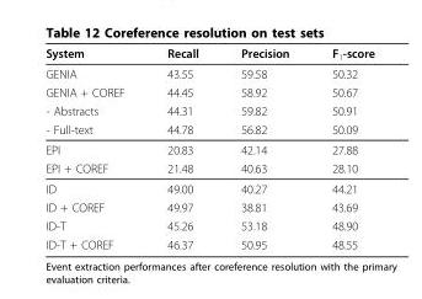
<table><thead><tr><td>System</td><td>Recall</td><td>Precision</td><td>F<sub>1</sub>-score</td></tr></thead><tbody><tr><td>GENIA</td><td>43.55</td><td>59.58</td><td>50.32</td></tr><tr><td>GENIA + COREF</td><td>44.45</td><td>58.92</td><td>50.67</td></tr><tr><td>- Abstracts</td><td>44.31</td><td>59.82</td><td>50.91</td></tr><tr><td>- Full-text</td><td>44.78</td><td>56.82</td><td>50.09</td></tr><tr><td>EPI</td><td>20.83</td><td>42.14</td><td>27.88</td></tr><tr><td>EPI + COREF</td><td>21.48</td><td>40.63</td><td>28.10</td></tr><tr><td>ID</td><td>49.00</td><td>40.27</td><td>44.21</td></tr><tr><td>ID + COREF</td><td>49.97</td><td>38.81</td><td>43.69</td></tr><tr><td>ID-T</td><td>45.26</td><td>53.18</td><td>48.90</td></tr><tr><td>ID-T + COREF</td><td>46.37</td><td>50.95</td><td>48.55</td></tr></tbody></table>